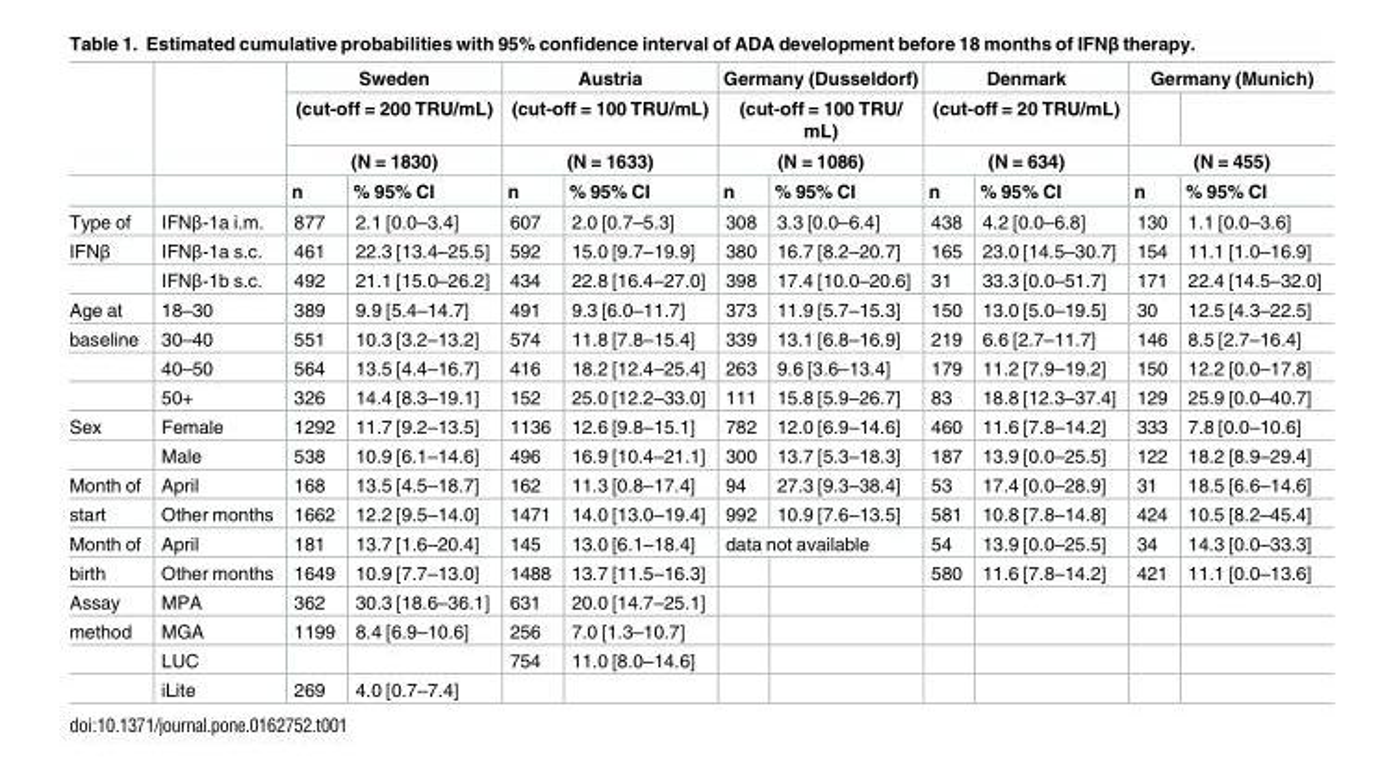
<table><thead><tr><td rowspan="4"></td><td rowspan="4"></td><td rowspan="3" colspan="2">Sweden (cut-off = 200 TRU/mL) (N = 1830)</td><td rowspan="3" colspan="2">Austria (cut-off = 100 TRU/mL) (N = 1633)</td><td rowspan="3" colspan="2">Germany (Dusseldorf) (cut-off = 100 TRU/ mL) (N = 1086)</td><td rowspan="3" colspan="2">Denmark (cut-off = 20 TRU/mL) (N = 634)</td><td colspan="2">Germany (Munich)</td></tr><tr><td></td><td></td></tr><tr><td colspan="2">(N = 455)</td></tr><tr><td>n</td><td>% 95% CI</td><td>n</td><td>% 95% CI</td><td>n</td><td>% 95% CI</td><td>n</td><td>% 95% CI</td><td>n</td><td>% 95% CI</td></tr></thead><tbody><tr><td>Type of</td><td>IFNβ-1a i.m.</td><td>877</td><td>2.1 [0.0–3.4]</td><td>607</td><td>2.0 [0.7–5.3]</td><td>308</td><td>3.3 [0.0–6.4]</td><td>438</td><td>4.2 [0.0–6.8]</td><td>130</td><td>1.1 [0.0–3.6]</td></tr><tr><td rowspan="2">IFNβ</td><td>IFNβ-1a s.c.</td><td>461</td><td>22.3 [13.4–25.5]</td><td>592</td><td>15.0 [9.7–19.9]</td><td>380</td><td>16.7 [8.2–20.7]</td><td>165</td><td>23.0 [14.5–30.7]</td><td>154</td><td>11.1 [1.0–16.9]</td></tr><tr><td>IFNβ-1b s.c.</td><td>492</td><td>21.1 [15.0–26.2]</td><td>434</td><td>22.8 [16.4–27.0]</td><td>398</td><td>17.4 [10.0–20.6]</td><td>31</td><td>33.3 [0.0–51.7]</td><td>171</td><td>22.4 [14.5–32.0]</td></tr><tr><td>Age at</td><td>18–30</td><td>389</td><td>9.9 [5.4–14.7]</td><td>491</td><td>9.3 [6.0–11.7]</td><td>373</td><td>11.9 [5.7–15.3]</td><td>150</td><td>13.0 [5.0–19.5]</td><td>30</td><td>12.5 [4.3–22.5]</td></tr><tr><td rowspan="3">baseline</td><td>30–40</td><td>551</td><td>10.3 [3.2–13.2]</td><td>574</td><td>11.8 [7.8–15.4]</td><td>339</td><td>13.1 [6.8–16.9]</td><td>219</td><td>6.6 [2.7–11.7]</td><td>146</td><td>8.5 [2.7–16.4]</td></tr><tr><td>40–50</td><td>564</td><td>13.5 [4.4–16.7]</td><td>416</td><td>18.2 [12.4–25.4]</td><td>263</td><td>9.6 [3.6–13.4]</td><td>179</td><td>11.2 [7.9–19.2]</td><td>150</td><td>12.2 [0.0–17.8]</td></tr><tr><td>50+</td><td>326</td><td>14.4 [8.3–19.1]</td><td>152</td><td>25.0 [12.2–33.0]</td><td>111</td><td>15.8 [5.9–26.7]</td><td>83</td><td>18.8 [12.3–37.4]</td><td>129</td><td>25.9 [0.0–40.7]</td></tr><tr><td rowspan="2">Sex</td><td>Female</td><td>1292</td><td>11.7 [9.2–13.5]</td><td>1136</td><td>12.6 [9.8–15.1]</td><td>782</td><td>12.0 [6.9–14.6]</td><td>460</td><td>11.6 [7.8–14.2]</td><td>333</td><td>7.8 [0.0–10.6]</td></tr><tr><td>Male</td><td>538</td><td>10.9 [6.1–14.6]</td><td>496</td><td>16.9 [10.4–21.1]</td><td>300</td><td>13.7 [5.3–18.3]</td><td>187</td><td>13.9 [0.0–25.5]</td><td>122</td><td>18.2 [8.9–29.4]</td></tr><tr><td>Month of</td><td>April</td><td>168</td><td>13.5 [4.5–18.7]</td><td>162</td><td>11.3 [0.8–17.4]</td><td>94</td><td>27.3 [9.3–38.4]</td><td>53</td><td>17.4 [0.0–28.9]</td><td>31</td><td>18.5 [6.6–14.6]</td></tr><tr><td>start</td><td>Other months</td><td>1662</td><td>12.2 [9.5–14.0]</td><td>1471</td><td>14.0 [13.0–19.4]</td><td>992</td><td>10.9 [7.6–13.5]</td><td>581</td><td>10.8 [7.8–14.8]</td><td>424</td><td>10.5 [8.2–45.4]</td></tr><tr><td>Month of</td><td>April</td><td>181</td><td>13.7 [1.6–20.4]</td><td>145</td><td>13.0 [6.1–18.4]</td><td colspan="2">data not available</td><td>54</td><td>13.9 [0.0–25.5]</td><td>34</td><td>14.3 [0.0–33.3]</td></tr><tr><td>birth</td><td>Other months</td><td>1649</td><td>10.9 [7.7–13.0]</td><td>1488</td><td>13.7 [11.5–16.3]</td><td></td><td></td><td>580</td><td>11.6 [7.8–14.2]</td><td>421</td><td>11.1 [0.0–13.6]</td></tr><tr><td>Assay</td><td>MPA</td><td>362</td><td>30.3 [18.6–36.1]</td><td>631</td><td>20.0 [14.7–25.1]</td><td></td><td></td><td></td><td></td><td></td><td></td></tr><tr><td rowspan="3">method</td><td>MGA</td><td>1199</td><td>8.4 [6.9–10.6]</td><td>256</td><td>7.0 [1.3–10.7]</td><td></td><td></td><td></td><td></td><td></td><td></td></tr><tr><td>LUC</td><td></td><td></td><td>754</td><td>11.0 [8.0–14.6]</td><td></td><td></td><td></td><td></td><td></td><td></td></tr><tr><td>iLite</td><td>269</td><td>4.0 [0.7–7.4]</td><td></td><td></td><td></td><td></td><td></td><td></td><td></td><td></td></tr></tbody></table>